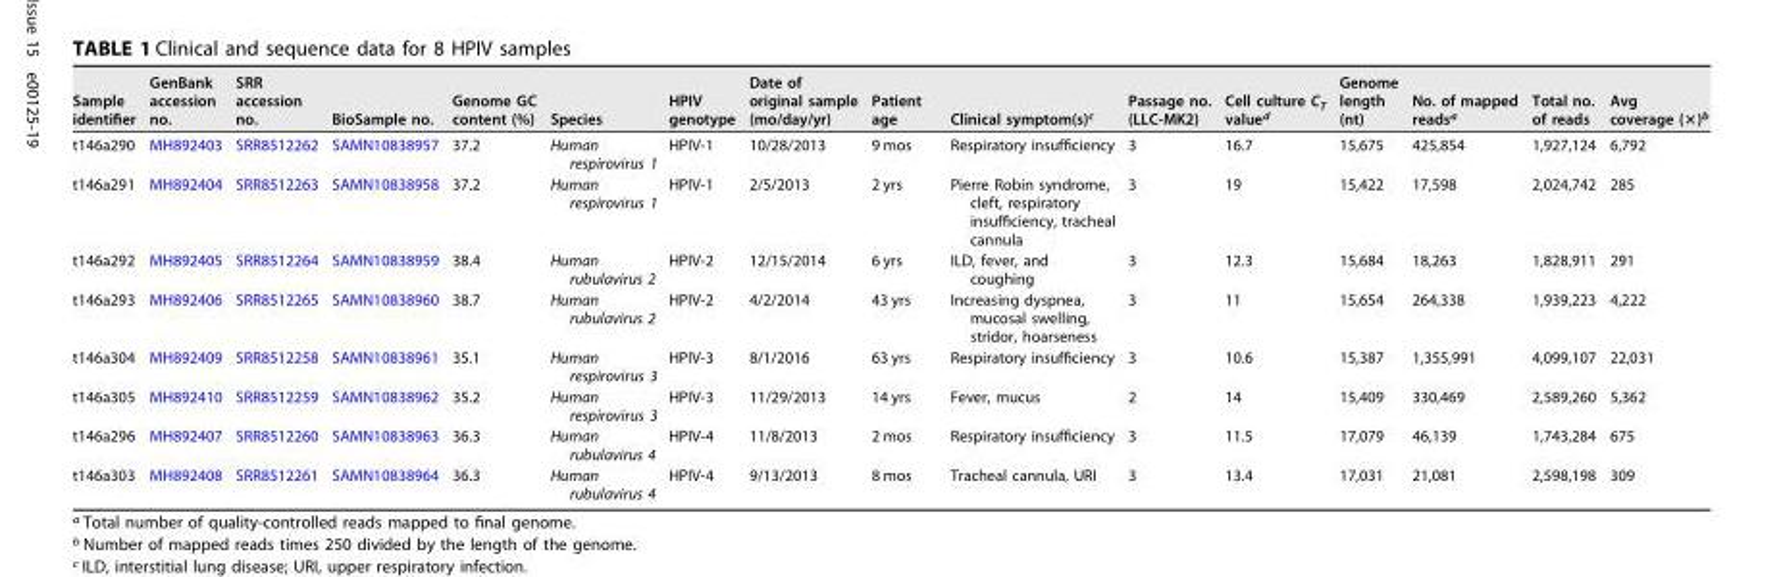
<table><thead><tr><td>Sample identifier</td><td>GenBank accession no.</td><td>SRR accession no.</td><td>BioSample no.</td><td>Genome GC content (%)</td><td>Species</td><td>HPIV genotype</td><td>Date of original sample (mo/day/yr)</td><td>Patient age</td><td>Clinical symptom(s)<sup>c</sup></td><td>Passage no. (LLC-MK2)</td><td>Cell culture C<sub>T</sub> value<sup>d</sup></td><td>Genome length (nt)</td><td>No. of mapped reads<sup>a</sup></td><td>Total no. of reads</td><td>Avg coverage (×)<sup>b</sup></td></tr></thead><tbody><tr><td>t146a290</td><td>MH892403</td><td>SRR8512262</td><td>SAMN10838957</td><td>37.2</td><td>Human respirovirus 1</td><td>HPIV-1</td><td>10/28/2013</td><td>9 mos</td><td>Respiratory insufficiency</td><td>3</td><td>16.7</td><td>15,675</td><td>425,854</td><td>1,927,124</td><td>6,792</td></tr><tr><td>t146a291</td><td>MH892404</td><td>SRR8512263</td><td>SAMN10838958</td><td>37.2</td><td>Human respirovirus 1</td><td>HPIV-1</td><td>2/5/2013</td><td>2 yrs</td><td>Pierre Robin syndrome, cleft, respiratory insufficiency, tracheal cannula</td><td>3</td><td>19</td><td>15,422</td><td>17,598</td><td>2,024,742</td><td>285</td></tr><tr><td>t146a292</td><td>MH892405</td><td>SRR8512264</td><td>SAMN10838959</td><td>38.4</td><td>Human rubulavirus 2</td><td>HPIV-2</td><td>12/15/2014</td><td>6 yrs</td><td>ILD, fever, and coughing</td><td>3</td><td>12.3</td><td>15,684</td><td>18,263</td><td>1,828,911</td><td>291</td></tr><tr><td>t146a293</td><td>MH892406</td><td>SRR8512265</td><td>SAMN10838960</td><td>38.7</td><td>Human rubulavirus 2</td><td>HPIV-2</td><td>4/2/2014</td><td>43 yrs</td><td>Increasing dyspnea, mucosal swelling, stridor, hoarseness</td><td>3</td><td>11</td><td>15,654</td><td>264,338</td><td>1,939,223</td><td>4,222</td></tr><tr><td>t146a304</td><td>MH892409</td><td>SRR8512258</td><td>SAMN10838961</td><td>35.1</td><td>Human respirovirus 3</td><td>HPIV-3</td><td>8/1/2016</td><td>63 yrs</td><td>Respiratory insufficiency</td><td>3</td><td>10.6</td><td>15,387</td><td>1,355,991</td><td>4,099,107</td><td>22,031</td></tr><tr><td>t146a305</td><td>MH892410</td><td>SRR8512259</td><td>SAMN10838962</td><td>35.2</td><td>Human respirovirus 3</td><td>HPIV-3</td><td>11/29/2013</td><td>14 yrs</td><td>Fever, mucus</td><td>2</td><td>14</td><td>15,409</td><td>330,469</td><td>2,589,260</td><td>5,362</td></tr><tr><td>t146a296</td><td>MH892407</td><td>SRR8512260</td><td>SAMN10838963</td><td>36.3</td><td>Human rubulavirus 4</td><td>HPIV-4</td><td>11/8/2013</td><td>2 mos</td><td>Respiratory insufficiency</td><td>3</td><td>11.5</td><td>17,079</td><td>46,139</td><td>1,743,284</td><td>675</td></tr><tr><td>t146a303</td><td>MH892408</td><td>SRR8512261</td><td>SAMN10838964</td><td>36.3</td><td>Human rubulavirus 4</td><td>HPIV-4</td><td>9/13/2013</td><td>8 mos</td><td>Tracheal cannula, URI</td><td>3</td><td>13.4</td><td>17,031</td><td>21,081</td><td>2,598,198</td><td>309</td></tr></tbody></table>